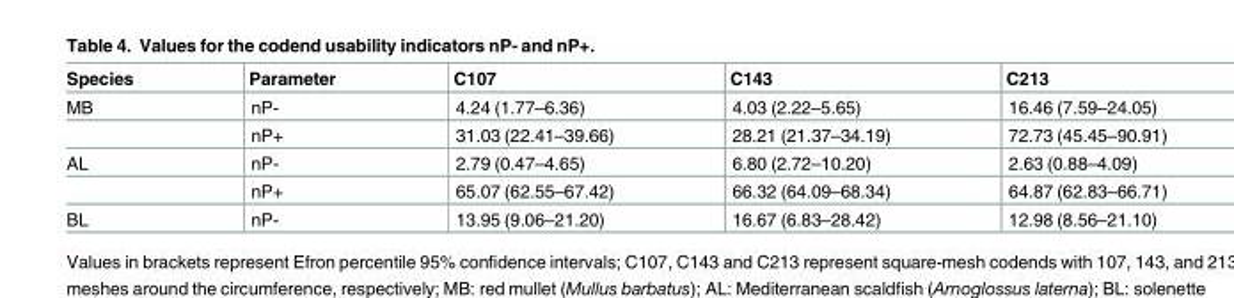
<table><thead><tr><td>Species</td><td>Parameter</td><td>C107</td><td>C143</td><td>C213</td></tr></thead><tbody><tr><td rowspan="2">MB</td><td>nP-</td><td>4.24 (1.77–6.36)</td><td>4.03 (2.22–5.65)</td><td>16.46 (7.59–24.05)</td></tr><tr><td>nP+</td><td>31.03 (22.41–39.66)</td><td>28.21 (21.37–34.19)</td><td>72.73 (45.45–90.91)</td></tr><tr><td rowspan="2">AL</td><td>nP-</td><td>2.79 (0.47–4.65)</td><td>6.80 (2.72–10.20)</td><td>2.63 (0.88–4.09)</td></tr><tr><td>nP+</td><td>65.07 (62.55–67.42)</td><td>66.32 (64.09–68.34)</td><td>64.87 (62.83–66.71)</td></tr><tr><td>BL</td><td>nP-</td><td>13.95 (9.06–21.20)</td><td>16.67 (6.83–28.42)</td><td>12.98 (8.56–21.10)</td></tr></tbody></table>